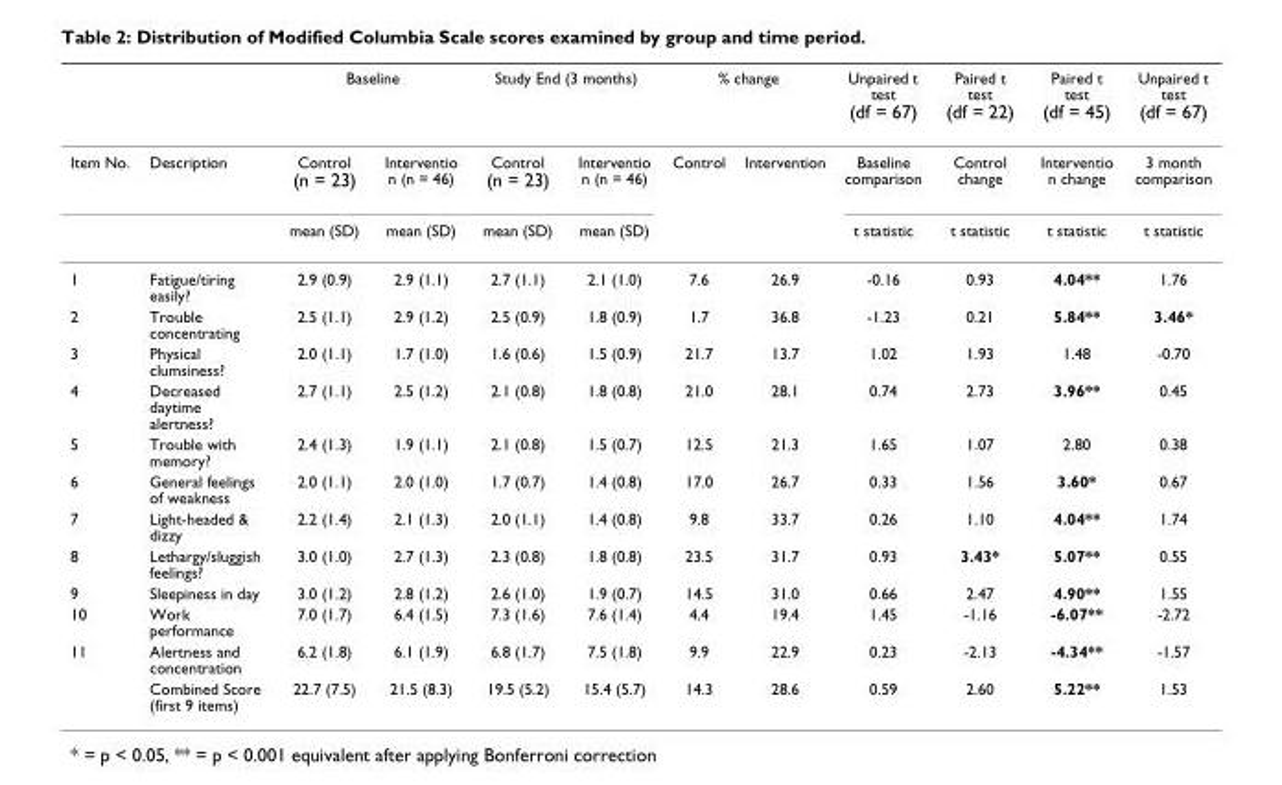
<table><thead><tr><td rowspan="2">Item No.</td><td rowspan="2">Description</td><td colspan="2">Baseline</td><td colspan="2">Study End (3 months)</td><td colspan="2">% change</td><td rowspan="2">Unpaired t test (df = 67) Baseline comparison</td><td rowspan="2">Paired t test (df = 22) Control change</td><td rowspan="2">Paired t test (df = 45) Interventio n change</td><td rowspan="2">Unpaired t test (df = 67) 3 month comparison</td></tr><tr><td>Control (n = 23)</td><td>Interventio n (n = 46)</td><td>Control (n = 23)</td><td>Interventio n (n = 46)</td><td>Control</td><td>Intervention</td></tr></thead><tbody><tr><td></td><td></td><td>mean (SD)</td><td>mean (SD)</td><td>mean (SD)</td><td>mean (SD)</td><td></td><td></td><td>t statistic</td><td>t statistic</td><td>t statistic</td><td>t statistic</td></tr><tr><td>1</td><td>Fatigue/tiring easily?</td><td>2.9 (0.9)</td><td>2.9 (1.1)</td><td>2.7 (1.1)</td><td>2.1 (1.0)</td><td>7.6</td><td>26.9</td><td>-0.16</td><td>0.93</td><td>4.04**</td><td>1.76</td></tr><tr><td>2</td><td>Trouble concentrating</td><td>2.5 (1.1)</td><td>2.9 (1.2)</td><td>2.5 (0.9)</td><td>1.8 (0.9)</td><td>1.7</td><td>36.8</td><td>-1.23</td><td>0.21</td><td>5.84**</td><td>3.46*</td></tr><tr><td>3</td><td>Physical clumsiness?</td><td>2.0 (1.1)</td><td>1.7 (1.0)</td><td>1.6 (0.6)</td><td>1.5 (0.9)</td><td>21.7</td><td>13.7</td><td>1.02</td><td>1.93</td><td>1.48</td><td>-0.70</td></tr><tr><td>4</td><td>Decreased daytime alertness?</td><td>2.7 (1.1)</td><td>2.5 (1.2)</td><td>2.1 (0.8)</td><td>1.8 (0.8)</td><td>21.0</td><td>28.1</td><td>0.74</td><td>2.73</td><td>3.96**</td><td>0.45</td></tr><tr><td>5</td><td>Trouble with memory?</td><td>2.4 (1.3)</td><td>1.9 (1.1)</td><td>2.1 (0.8)</td><td>1.5 (0.7)</td><td>12.5</td><td>21.3</td><td>1.65</td><td>1.07</td><td>2.80</td><td>0.38</td></tr><tr><td>6</td><td>General feelings of weakness</td><td>2.0 (1.1)</td><td>2.0 (1.0)</td><td>1.7 (0.7)</td><td>1.4 (0.8)</td><td>17.0</td><td>26.7</td><td>0.33</td><td>1.56</td><td>3.60*</td><td>0.67</td></tr><tr><td>7</td><td>Light-headed &amp; dizzy</td><td>2.2 (1.4)</td><td>2.1 (1.3)</td><td>2.0 (1.1)</td><td>1.4 (0.8)</td><td>9.8</td><td>33.7</td><td>0.26</td><td>1.10</td><td>4.04**</td><td>1.74</td></tr><tr><td>8</td><td>Lethargy/sluggish feelings?</td><td>3.0 (1.0)</td><td>2.7 (1.3)</td><td>2.3 (0.8)</td><td>1.8 (0.8)</td><td>23.5</td><td>31.7</td><td>0.93</td><td>3.43*</td><td>5.07**</td><td>0.55</td></tr><tr><td>9</td><td>Sleepiness in day</td><td>3.0 (1.2)</td><td>2.8 (1.2)</td><td>2.6 (1.0)</td><td>1.9 (0.7)</td><td>14.5</td><td>31.0</td><td>0.66</td><td>2.47</td><td>4.90**</td><td>1.55</td></tr><tr><td>10</td><td>Work performance</td><td>7.0 (1.7)</td><td>6.4 (1.5)</td><td>7.3 (1.6)</td><td>7.6 (1.4)</td><td>4.4</td><td>19.4</td><td>1.45</td><td>-1.16</td><td>-6.07**</td><td>-2.72</td></tr><tr><td rowspan="2">11</td><td>Alertness and concentration</td><td>6.2 (1.8)</td><td>6.1 (1.9)</td><td>6.8 (1.7)</td><td>7.5 (1.8)</td><td>9.9</td><td>22.9</td><td>0.23</td><td>-2.13</td><td>-4.34**</td><td>-1.57</td></tr><tr><td>Combined Score (first 9 items)</td><td>22.7 (7.5)</td><td>21.5 (8.3)</td><td>19.5 (5.2)</td><td>15.4 (5.7)</td><td>14.3</td><td>28.6</td><td>0.59</td><td>2.60</td><td>5.22**</td><td>1.53</td></tr></tbody></table>